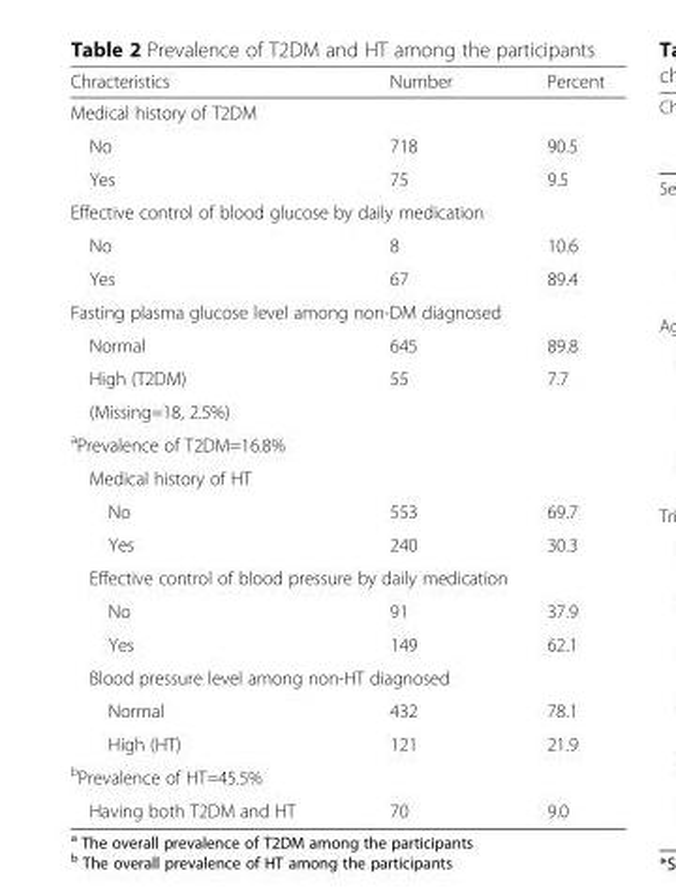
<table><thead><tr><td>Chracteristics</td><td>Number</td><td>Percent</td></tr></thead><tbody><tr><td colspan="3">Medical history of T2DM</td></tr><tr><td>No</td><td>718</td><td>90.5</td></tr><tr><td>Yes</td><td>75</td><td>9.5</td></tr><tr><td colspan="3">Effective control of blood glucose by daily medication</td></tr><tr><td>No</td><td>8</td><td>10.6</td></tr><tr><td>Yes</td><td>67</td><td>89.4</td></tr><tr><td colspan="3">Fasting plasma glucose level among non-DM diagnosed</td></tr><tr><td>Normal</td><td>645</td><td>89.8</td></tr><tr><td>High (T2DM)</td><td>55</td><td>7.7</td></tr><tr><td colspan="3">(Missing=18, 2.5%)</td></tr><tr><td colspan="3"><sup>a</sup>Prevalence of T2DM=16.8%</td></tr><tr><td colspan="3">Medical history of HT</td></tr><tr><td>No</td><td>553</td><td>69.7</td></tr><tr><td>Yes</td><td>240</td><td>30.3</td></tr><tr><td colspan="3">Effective control of blood pressure by daily medication</td></tr><tr><td>No</td><td>91</td><td>37.9</td></tr><tr><td>Yes</td><td>149</td><td>62.1</td></tr><tr><td colspan="3">Blood pressure level among non-HT diagnosed</td></tr><tr><td>Normal</td><td>432</td><td>78.1</td></tr><tr><td>High (HT)</td><td>121</td><td>21.9</td></tr><tr><td colspan="3"><sup>b</sup>Prevalence of HT=45.5%</td></tr><tr><td>Having both T2DM and HT</td><td>70</td><td>9.0</td></tr></tbody></table>